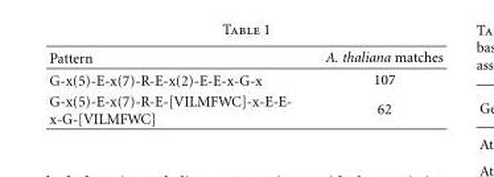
<table><thead><tr><td>Pattern</td><td>A. thaliana matches</td></tr></thead><tbody><tr><td>G-x(5)-E-x(7)-R-E-x(2)-E-E-x-G-x</td><td>107</td></tr><tr><td>G-x(5)-E-x(7)-R-E-[VILMFWC]-x-E-E- x-G-[VILMFWC]</td><td>62</td></tr></tbody></table>